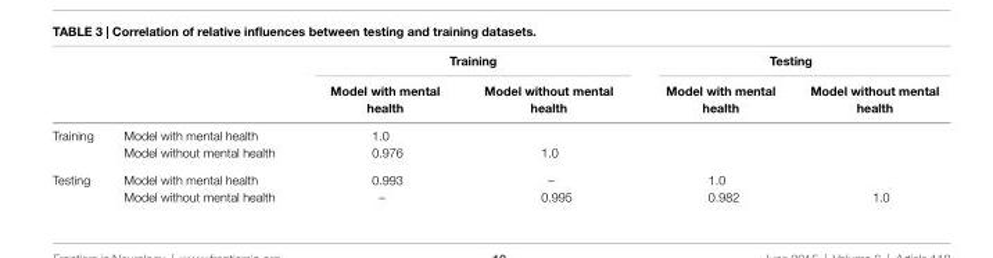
<table><thead><tr><td rowspan="2"></td><td rowspan="2"></td><td colspan="2">Training</td><td colspan="2">Testing</td></tr><tr><td>Model with mental health</td><td>Model without mental health</td><td>Model with mental health</td><td>Model without mental health</td></tr></thead><tbody><tr><td rowspan="2">Training</td><td>Model with mental health</td><td>1.0</td><td></td><td></td><td></td></tr><tr><td>Model without mental health</td><td>0.976</td><td>1.0</td><td></td><td></td></tr><tr><td rowspan="2">Testing</td><td>Model with mental health</td><td>0.993</td><td>–</td><td>1.0</td><td></td></tr><tr><td>Model without mental health</td><td>–</td><td>0.995</td><td>0.982</td><td>1.0</td></tr></tbody></table>